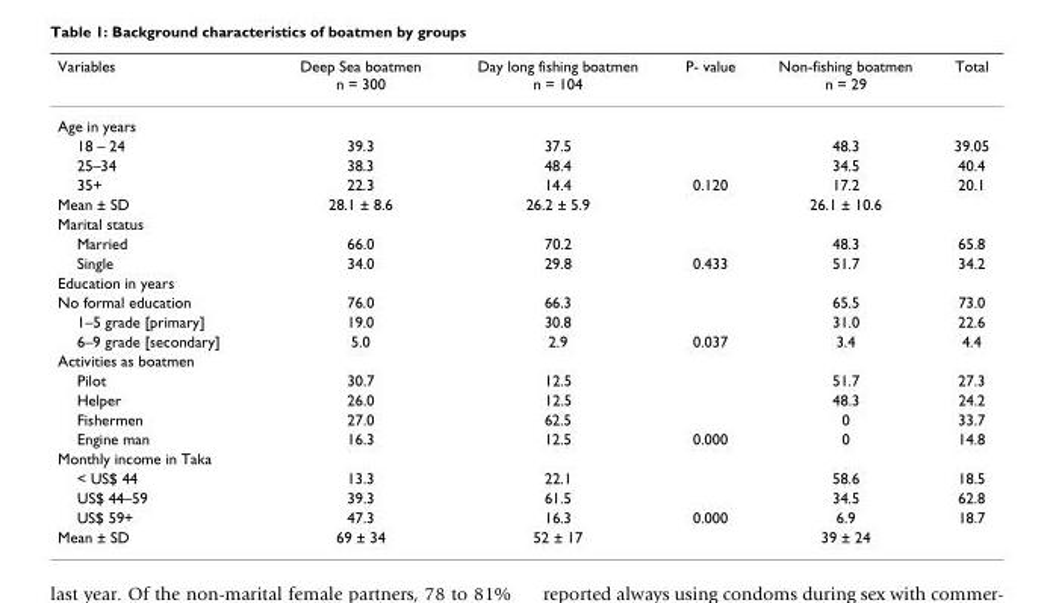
<table><thead><tr><td>Variables</td><td>Deep Sea boatmen n = 300</td><td>Day long fishing boatmen n = 104</td><td>P- value</td><td>Non-fishing boatmen n = 29</td><td>Total</td></tr></thead><tbody><tr><td colspan="6">Age in years</td></tr><tr><td>18 – 24</td><td>39.3</td><td>37.5</td><td></td><td>48.3</td><td>39.05</td></tr><tr><td>25–34</td><td>38.3</td><td>48.4</td><td></td><td>34.5</td><td>40.4</td></tr><tr><td>35+</td><td>22.3</td><td>14.4</td><td>0.120</td><td>17.2</td><td>20.1</td></tr><tr><td>Mean ± SD</td><td>28.1 ± 8.6</td><td>26.2 ± 5.9</td><td></td><td>26.1 ± 10.6</td><td></td></tr><tr><td colspan="6">Marital status</td></tr><tr><td>Married</td><td>66.0</td><td>70.2</td><td></td><td>48.3</td><td>65.8</td></tr><tr><td>Single</td><td>34.0</td><td>29.8</td><td>0.433</td><td>51.7</td><td>34.2</td></tr><tr><td colspan="6">Education in years</td></tr><tr><td>No formal education</td><td>76.0</td><td>66.3</td><td></td><td>65.5</td><td>73.0</td></tr><tr><td>1–5 grade [primary]</td><td>19.0</td><td>30.8</td><td></td><td>31.0</td><td>22.6</td></tr><tr><td>6–9 grade [secondary]</td><td>5.0</td><td>2.9</td><td>0.037</td><td>3.4</td><td>4.4</td></tr><tr><td colspan="6">Activities as boatmen</td></tr><tr><td>Pilot</td><td>30.7</td><td>12.5</td><td></td><td>51.7</td><td>27.3</td></tr><tr><td>Helper</td><td>26.0</td><td>12.5</td><td></td><td>48.3</td><td>24.2</td></tr><tr><td>Fishermen</td><td>27.0</td><td>62.5</td><td></td><td>0</td><td>33.7</td></tr><tr><td>Engine man</td><td>16.3</td><td>12.5</td><td>0.000</td><td>0</td><td>14.8</td></tr><tr><td colspan="6">Monthly income in Taka</td></tr><tr><td>&lt; US$ 44</td><td>13.3</td><td>22.1</td><td></td><td>58.6</td><td>18.5</td></tr><tr><td>US$ 44–59</td><td>39.3</td><td>61.5</td><td></td><td>34.5</td><td>62.8</td></tr><tr><td>US$ 59+</td><td>47.3</td><td>16.3</td><td>0.000</td><td>6.9</td><td>18.7</td></tr><tr><td>Mean ± SD</td><td>69 ± 34</td><td>52 ± 17</td><td></td><td>39 ± 24</td><td></td></tr></tbody></table>